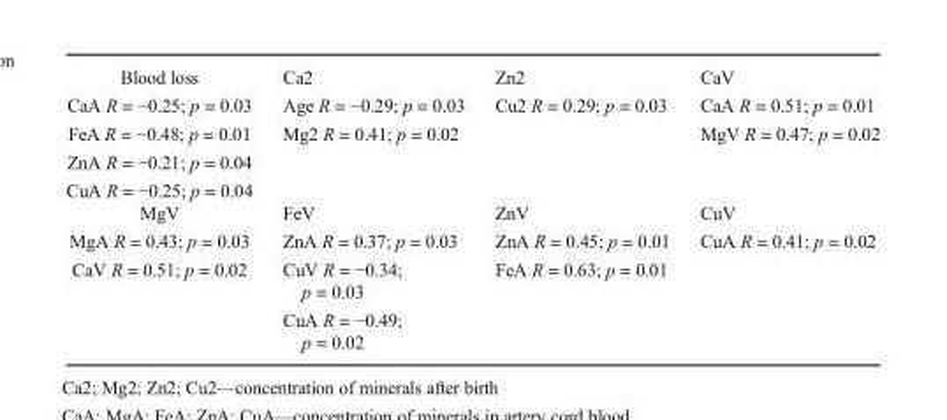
<table><tbody><tr><td>Blood loss</td><td>Ca2</td><td>Zn2</td><td>CaV</td></tr><tr><td>CaA R = −0.25; p = 0.03 FeA R = −0.48; p = 0.01 ZnA R = −0.21; p = 0.04 CuA R = −0.25; p = 0.04</td><td>Age R = −0.29; p = 0.03 Mg2 R = 0.41; p = 0.02</td><td>Cu2 R = 0.29; p = 0.03</td><td>CaA R = 0.51; p = 0.01 MgV R = 0.47; p = 0.02</td></tr><tr><td>MgV</td><td>FeV</td><td>ZnV</td><td>CuV</td></tr><tr><td>MgA R = 0.43; p = 0.03 CaV R = 0.51; p = 0.02</td><td>ZnA R = 0.37; p = 0.03 CuV R = −0.34; p = 0.03 CuA R = −0.49; p = 0.02</td><td>ZnA R = 0.45; p = 0.01 FeA R = 0.63; p = 0.01</td><td>CuA R = 0.41; p = 0.02</td></tr></tbody></table>